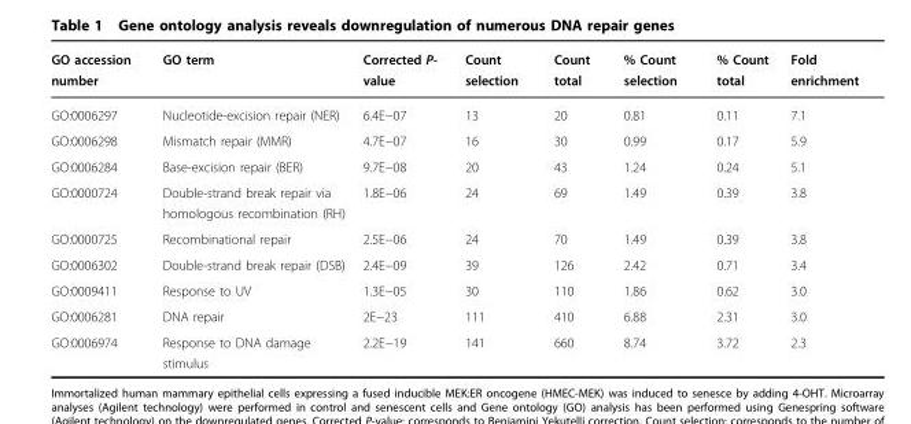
<table><thead><tr><td>GO accession number</td><td>GO term</td><td>Corrected P- value</td><td>Count selection</td><td>Count total</td><td>% Count selection</td><td>% Count total</td><td>Fold enrichment</td></tr></thead><tbody><tr><td>GO:0006297</td><td>Nucleotide-excision repair (NER)</td><td>6.4E−07</td><td>13</td><td>20</td><td>0.81</td><td>0.11</td><td>7.1</td></tr><tr><td>GO:0006298</td><td>Mismatch repair (MMR)</td><td>4.7E−07</td><td>16</td><td>30</td><td>0.99</td><td>0.17</td><td>5.9</td></tr><tr><td>GO:0006284</td><td>Base-excision repair (BER)</td><td>9.7E−08</td><td>20</td><td>43</td><td>1.24</td><td>0.24</td><td>5.1</td></tr><tr><td>GO:0000724</td><td>Double-strand break repair via homologous recombination (RH)</td><td>1.8E−06</td><td>24</td><td>69</td><td>1.49</td><td>0.39</td><td>3.8</td></tr><tr><td>GO:0000725</td><td>Recombinational repair</td><td>2.5E−06</td><td>24</td><td>70</td><td>1.49</td><td>0.39</td><td>3.8</td></tr><tr><td>GO:0006302</td><td>Double-strand break repair (DSB)</td><td>2.4E−09</td><td>39</td><td>126</td><td>2.42</td><td>0.71</td><td>3.4</td></tr><tr><td>GO:0009411</td><td>Response to UV</td><td>1.3E−05</td><td>30</td><td>110</td><td>1.86</td><td>0.62</td><td>3.0</td></tr><tr><td>GO:0006281</td><td>DNA repair</td><td>2E−23</td><td>111</td><td>410</td><td>6.88</td><td>2.31</td><td>3.0</td></tr><tr><td>GO:0006974</td><td>Response to DNA damage stimulus</td><td>2.2E−19</td><td>141</td><td>660</td><td>8.74</td><td>3.72</td><td>2.3</td></tr></tbody></table>